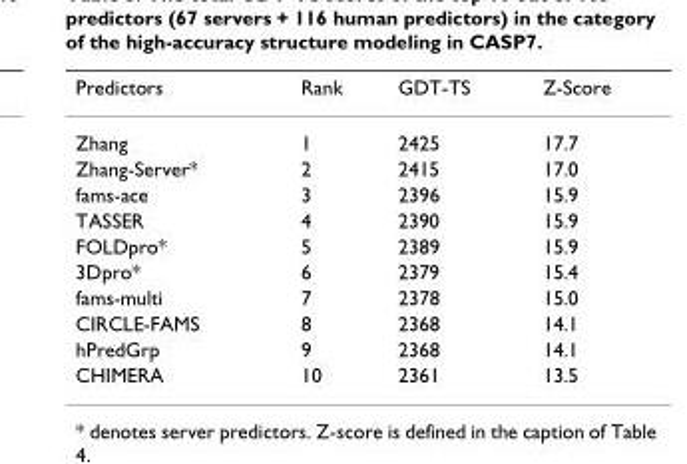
<table><thead><tr><td>Predictors</td><td>Rank</td><td>GDT-TS</td><td>Z-Score</td></tr></thead><tbody><tr><td>Zhang</td><td>1</td><td>2425</td><td>17.7</td></tr><tr><td>Zhang-Server*</td><td>2</td><td>2415</td><td>17.0</td></tr><tr><td>fams-ace</td><td>3</td><td>2396</td><td>15.9</td></tr><tr><td>TASSER</td><td>4</td><td>2390</td><td>15.9</td></tr><tr><td>FOLDpro*</td><td>5</td><td>2389</td><td>15.9</td></tr><tr><td>3Dpro*</td><td>6</td><td>2379</td><td>15.4</td></tr><tr><td>fams-multi</td><td>7</td><td>2378</td><td>15.0</td></tr><tr><td>CIRCLE-FAMS</td><td>8</td><td>2368</td><td>14.1</td></tr><tr><td>hPredGrp</td><td>9</td><td>2368</td><td>14.1</td></tr><tr><td>CHIMERA</td><td>10</td><td>2361</td><td>13.5</td></tr></tbody></table>